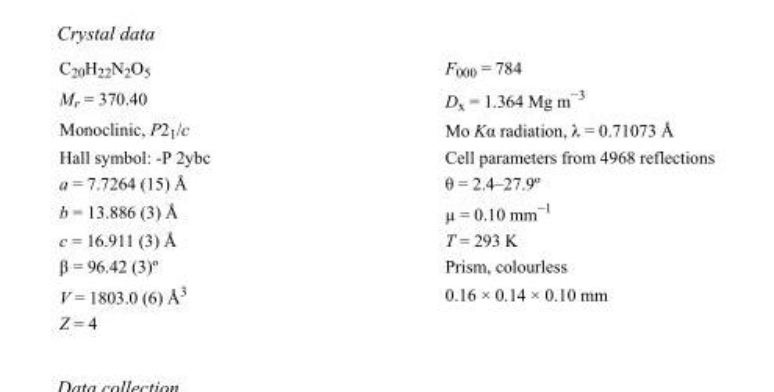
<table><tbody><tr><td>C<sub>20</sub>H<sub>22</sub>N<sub>2</sub>O<sub>5</sub></td><td>F000 = 784</td></tr><tr><td>M<sub>r</sub> = 370.40</td><td>D<sub>x</sub> = 1.364 Mg m<sup>−3</sup></td></tr><tr><td>Monoclinic, P2<sub>1</sub>/c</td><td>Mo Kα radiation, λ = 0.71073 Å</td></tr><tr><td>Hall symbol: -P 2ybc</td><td>Cell parameters from 4968 reflections</td></tr><tr><td>a = 7.7264 (15) Å</td><td>θ = 2.4–27.9º</td></tr><tr><td>b = 13.886 (3) Å</td><td>µ = 0.10 mm<sup>−1</sup></td></tr><tr><td>c = 16.911 (3) Å</td><td>T = 293 K</td></tr><tr><td>β = 96.42 (3)º</td><td>Prism, colourless</td></tr><tr><td>V = 1803.0 (6) Å<sup>3</sup></td><td>0.16 × 0.14 × 0.10 mm</td></tr><tr><td>Z = 4</td><td></td></tr></tbody></table>